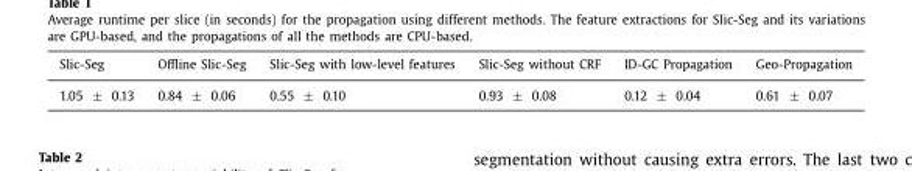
<table><thead><tr><td>Slic-Seg</td><td>Offline Slic-Seg</td><td>Slic-Seg with low-level features</td><td>Slic-Seg without CRF</td><td>ID-GC Propagation</td><td>Geo-Propagation</td></tr></thead><tbody><tr><td>1.05 ± 0.13</td><td>0.84 ± 0.06</td><td>0.55 ± 0.10</td><td>0.93 ± 0.08</td><td>0.12 ± 0.04</td><td>0.61 ± 0.07</td></tr></tbody></table>